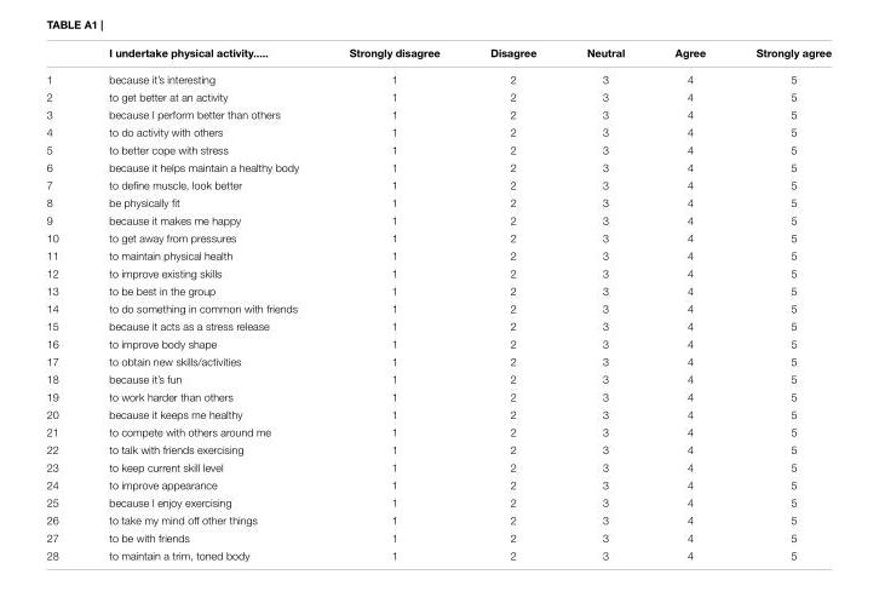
<table><thead><tr><td></td><td>I undertake physical activity.....</td><td>Strongly disagree</td><td>Disagree</td><td>Neutral</td><td>Agree</td><td>Strongly agree</td></tr></thead><tbody><tr><td>1</td><td>because it’s interesting</td><td>1</td><td>2</td><td>3</td><td>4</td><td>5</td></tr><tr><td>2</td><td>to get better at an activity</td><td>1</td><td>2</td><td>3</td><td>4</td><td>5</td></tr><tr><td>3</td><td>because I perform better than others</td><td>1</td><td>2</td><td>3</td><td>4</td><td>5</td></tr><tr><td>4</td><td>to do activity with others</td><td>1</td><td>2</td><td>3</td><td>4</td><td>5</td></tr><tr><td>5</td><td>to better cope with stress</td><td>1</td><td>2</td><td>3</td><td>4</td><td>5</td></tr><tr><td>6</td><td>because it helps maintain a healthy body</td><td>1</td><td>2</td><td>3</td><td>4</td><td>5</td></tr><tr><td>7</td><td>to define muscle, look better</td><td>1</td><td>2</td><td>3</td><td>4</td><td>5</td></tr><tr><td>8</td><td>be physically fit</td><td>1</td><td>2</td><td>3</td><td>4</td><td>5</td></tr><tr><td>9</td><td>because it makes me happy</td><td>1</td><td>2</td><td>3</td><td>4</td><td>5</td></tr><tr><td>10</td><td>to get away from pressures</td><td>1</td><td>2</td><td>3</td><td>4</td><td>5</td></tr><tr><td>11</td><td>to maintain physical health</td><td>1</td><td>2</td><td>3</td><td>4</td><td>5</td></tr><tr><td>12</td><td>to improve existing skills</td><td>1</td><td>2</td><td>3</td><td>4</td><td>5</td></tr><tr><td>13</td><td>to be best in the group</td><td>1</td><td>2</td><td>3</td><td>4</td><td>5</td></tr><tr><td>14</td><td>to do something in common with friends</td><td>1</td><td>2</td><td>3</td><td>4</td><td>5</td></tr><tr><td>15</td><td>because it acts as a stress release</td><td>1</td><td>2</td><td>3</td><td>4</td><td>5</td></tr><tr><td>16</td><td>to improve body shape</td><td>1</td><td>2</td><td>3</td><td>4</td><td>5</td></tr><tr><td>17</td><td>to obtain new skills/activities</td><td>1</td><td>2</td><td>3</td><td>4</td><td>5</td></tr><tr><td>18</td><td>because it’s fun</td><td>1</td><td>2</td><td>3</td><td>4</td><td>5</td></tr><tr><td>19</td><td>to work harder than others</td><td>1</td><td>2</td><td>3</td><td>4</td><td>5</td></tr><tr><td>20</td><td>because it keeps me healthy</td><td>1</td><td>2</td><td>3</td><td>4</td><td>5</td></tr><tr><td>21</td><td>to compete with others around me</td><td>1</td><td>2</td><td>3</td><td>4</td><td>5</td></tr><tr><td>22</td><td>to talk with friends exercising</td><td>1</td><td>2</td><td>3</td><td>4</td><td>5</td></tr><tr><td>23</td><td>to keep current skill level</td><td>1</td><td>2</td><td>3</td><td>4</td><td>5</td></tr><tr><td>24</td><td>to improve appearance</td><td>1</td><td>2</td><td>3</td><td>4</td><td>5</td></tr><tr><td>25</td><td>because I enjoy exercising</td><td>1</td><td>2</td><td>3</td><td>4</td><td>5</td></tr><tr><td>26</td><td>to take my mind off other things</td><td>1</td><td>2</td><td>3</td><td>4</td><td>5</td></tr><tr><td>27</td><td>to be with friends</td><td>1</td><td>2</td><td>3</td><td>4</td><td>5</td></tr><tr><td>28</td><td>to maintain a trim, toned body</td><td>1</td><td>2</td><td>3</td><td>4</td><td>5</td></tr></tbody></table>